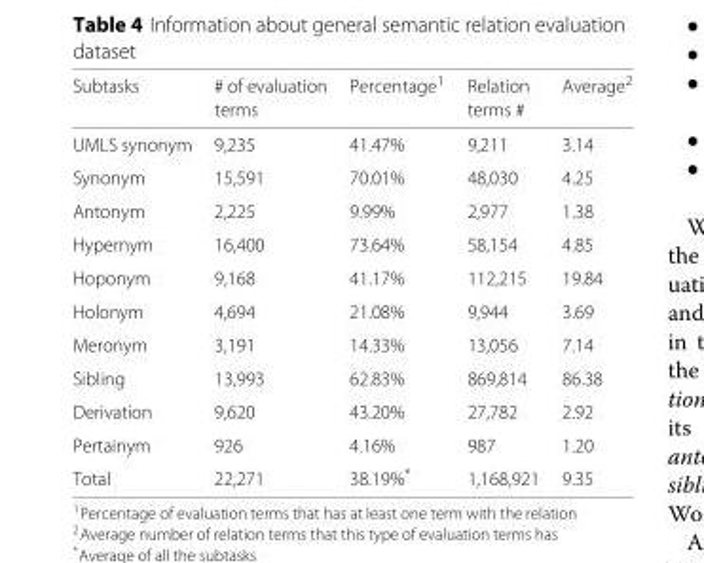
<table><thead><tr><td rowspan="2">Subtasks</td><td rowspan="2"># of evaluation terms</td><td rowspan="2">Percentage<sup>1</sup></td><td rowspan="2">Relation terms #</td><td rowspan="2">Average<sup>2</sup></td></tr><tr></tr></thead><tbody><tr><td>UMLS synonym</td><td>9,235</td><td>41.47%</td><td>9,211</td><td>3.14</td></tr><tr><td>Synonym</td><td>15,591</td><td>70.01%</td><td>48,030</td><td>4.25</td></tr><tr><td>Antonym</td><td>2,225</td><td>9.99%</td><td>2,977</td><td>1.38</td></tr><tr><td>Hypernym</td><td>16,400</td><td>73.64%</td><td>58,154</td><td>4.85</td></tr><tr><td>Hoponym</td><td>9,168</td><td>41.17%</td><td>112,215</td><td>19.84</td></tr><tr><td>Holonym</td><td>4,694</td><td>21.08%</td><td>9,944</td><td>3.69</td></tr><tr><td>Meronym</td><td>3,191</td><td>14.33%</td><td>13,056</td><td>7.14</td></tr><tr><td>Sibling</td><td>13,993</td><td>62.83%</td><td>869,814</td><td>86.38</td></tr><tr><td>Derivation</td><td>9,620</td><td>43.20%</td><td>27,782</td><td>2.92</td></tr><tr><td>Pertainym</td><td>926</td><td>4.16%</td><td>987</td><td>1.20</td></tr><tr><td>Total</td><td>22,271</td><td>38.19%*</td><td>1,168,921</td><td>9.35</td></tr></tbody></table>